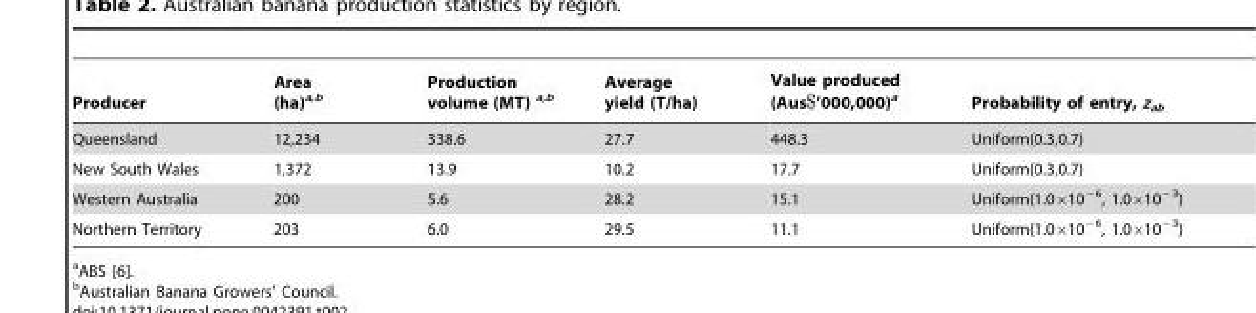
<table><thead><tr><td>Producer</td><td>Area (ha)a,b</td><td>Production volume (MT) a,b</td><td>Average yield (T/ha)</td><td>Value produced (Aus$’000,000)<sup>a</sup></td><td>Probability of entry, z<sub>ab</sub></td></tr></thead><tbody><tr><td>Queensland</td><td>12,234</td><td>338.6</td><td>27.7</td><td>448.3</td><td>Uniform(0.3,0.7)</td></tr><tr><td>New South Wales</td><td>1,372</td><td>13.9</td><td>10.2</td><td>17.7</td><td>Uniform(0.3,0.7)</td></tr><tr><td>Western Australia</td><td>200</td><td>5.6</td><td>28.2</td><td>15.1</td><td>Uniform(1.0×10<sup>−6</sup>, 1.0×10<sup>−3</sup>)</td></tr><tr><td>Northern Territory</td><td>203</td><td>6.0</td><td>29.5</td><td>11.1</td><td>Uniform(1.0×10<sup>−6</sup>, 1.0×10<sup>−3</sup>)</td></tr></tbody></table>